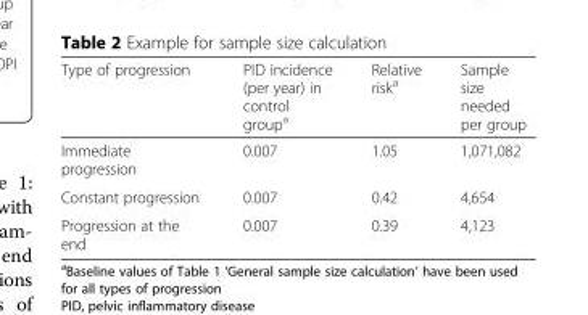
<table><thead><tr><td>Type of progression</td><td>PID incidence (per year) in control group<sup>a</sup></td><td>Relative risk<sup>a</sup></td><td>Sample size needed per group</td></tr></thead><tbody><tr><td>Immediate progression</td><td>0.007</td><td>1.05</td><td>1,071,082</td></tr><tr><td>Constant progression</td><td>0.007</td><td>0.42</td><td>4,654</td></tr><tr><td>Progression at the end</td><td>0.007</td><td>0.39</td><td>4,123</td></tr></tbody></table>